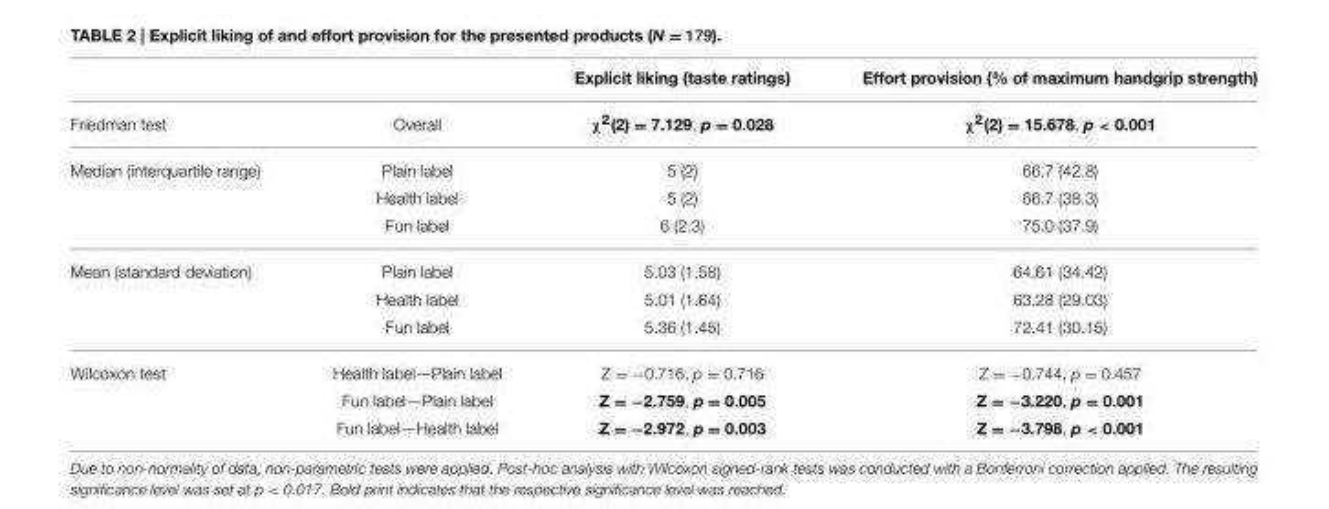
<table><thead><tr><td></td><td></td><td>Explicit liking (taste ratings)</td><td>Effort provision (% of maximum handgrip strength)</td></tr></thead><tbody><tr><td>Friedman test</td><td>Overall</td><td>χ<sup>2</sup>(2) = 7.129, p = 0.028</td><td>χ<sup>2</sup>(2) = 15.678, p &lt; 0.001</td></tr><tr><td rowspan="3">Median (interquartile range)</td><td>Plain label</td><td>5 (2)</td><td>66.7 (42.8)</td></tr><tr><td>Health label</td><td>5 (2)</td><td>66.7 (38.3)</td></tr><tr><td>Fun label</td><td>6 (2.3)</td><td>75.0 (37.9)</td></tr><tr><td rowspan="3">Mean (standard deviation)</td><td>Plain label</td><td>5.03 (1.58)</td><td>64.61 (34.42)</td></tr><tr><td>Health label</td><td>5.01 (1.64)</td><td>63.28 (29.03)</td></tr><tr><td>Fun label</td><td>5.36 (1.45)</td><td>72.41 (30.15)</td></tr><tr><td rowspan="3">Wilcoxon test</td><td>Health label—Plain label</td><td>Z = −0.716, p = 0.716</td><td>Z = −0.744, p = 0.457</td></tr><tr><td>Fun label—Plain label</td><td>Z = −2.759, p = 0.005</td><td>Z = −3.220, p = 0.001</td></tr><tr><td>Fun label—Health label</td><td>Z = −2.972, p = 0.003</td><td>Z = −3.798, p &lt; 0.001</td></tr></tbody></table>